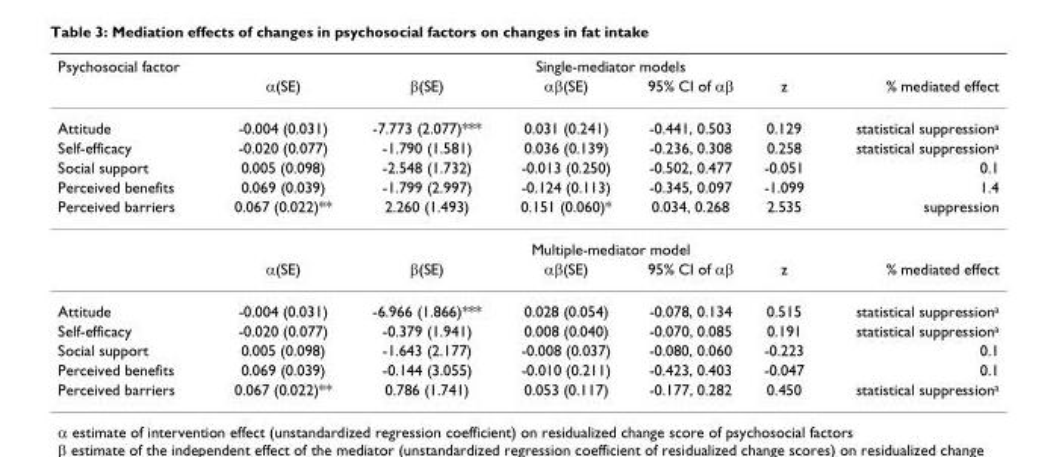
<table><thead><tr><td rowspan="2">Psychosocial factor</td><td colspan="6">Single-mediator models</td></tr><tr><td>α(SE)</td><td>β(SE)</td><td>αβ(SE)</td><td>95% CI of αβ</td><td>z</td><td>% mediated effect</td></tr></thead><tbody><tr><td>Attitude</td><td>-0.004 (0.031)</td><td>-7.773 (2.077)***</td><td>0.031 (0.241)</td><td>-0.441, 0.503</td><td>0.129</td><td>statistical suppression<sup>a</sup></td></tr><tr><td>Self-efficacy</td><td>-0.020 (0.077)</td><td>-1.790 (1.581)</td><td>0.036 (0.139)</td><td>-0.236, 0.308</td><td>0.258</td><td>statistical suppression<sup>a</sup></td></tr><tr><td>Social support</td><td>0.005 (0.098)</td><td>-2.548 (1.732)</td><td>-0.013 (0.250)</td><td>-0.502, 0.477</td><td>-0.051</td><td>0.1</td></tr><tr><td>Perceived benefits</td><td>0.069 (0.039)</td><td>-1.799 (2.997)</td><td>-0.124 (0.113)</td><td>-0.345, 0.097</td><td>-1.099</td><td>1.4</td></tr><tr><td rowspan="3">Perceived barriers</td><td>0.067 (0.022)**</td><td>2.260 (1.493)</td><td>0.151 (0.060)*</td><td>0.034, 0.268</td><td>2.535</td><td>suppression</td></tr><tr><td colspan="6">Multiple-mediator model</td></tr><tr><td>α(SE)</td><td>β(SE)</td><td>αβ(SE)</td><td>95% CI of αβ</td><td>z</td><td>% mediated effect</td></tr><tr><td>Attitude</td><td>-0.004 (0.031)</td><td>-6.966 (1.866)***</td><td>0.028 (0.054)</td><td>-0.078, 0.134</td><td>0.515</td><td>statistical suppression<sup>a</sup></td></tr><tr><td>Self-efficacy</td><td>-0.020 (0.077)</td><td>-0.379 (1.941)</td><td>0.008 (0.040)</td><td>-0.070, 0.085</td><td>0.191</td><td>statistical suppression<sup>a</sup></td></tr><tr><td>Social support</td><td>0.005 (0.098)</td><td>-1.643 (2.177)</td><td>-0.008 (0.037)</td><td>-0.080, 0.060</td><td>-0.223</td><td>0.1</td></tr><tr><td>Perceived benefits</td><td>0.069 (0.039)</td><td>-0.144 (3.055)</td><td>-0.010 (0.211)</td><td>-0.423, 0.403</td><td>-0.047</td><td>0.1</td></tr><tr><td>Perceived barriers</td><td>0.067 (0.022)**</td><td>0.786 (1.741)</td><td>0.053 (0.117)</td><td>-0.177, 0.282</td><td>0.450</td><td>statistical suppression<sup>a</sup></td></tr></tbody></table>